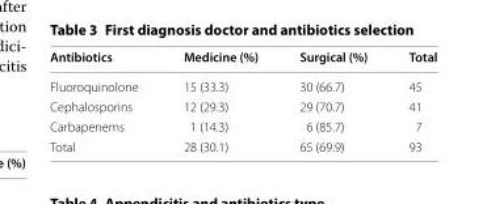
<table><thead><tr><td>Antibiotics</td><td>Medicine (%)</td><td>Surgical (%)</td><td>Total</td></tr></thead><tbody><tr><td>Fluoroquinolone</td><td>15 (33.3)</td><td>30 (66.7)</td><td>45</td></tr><tr><td>Cephalosporins</td><td>12 (29.3)</td><td>29 (70.7)</td><td>41</td></tr><tr><td>Carbapenems</td><td>1 (14.3)</td><td>6 (85.7)</td><td>7</td></tr><tr><td>Total</td><td>28 (30.1)</td><td>65 (69.9)</td><td>93</td></tr></tbody></table>